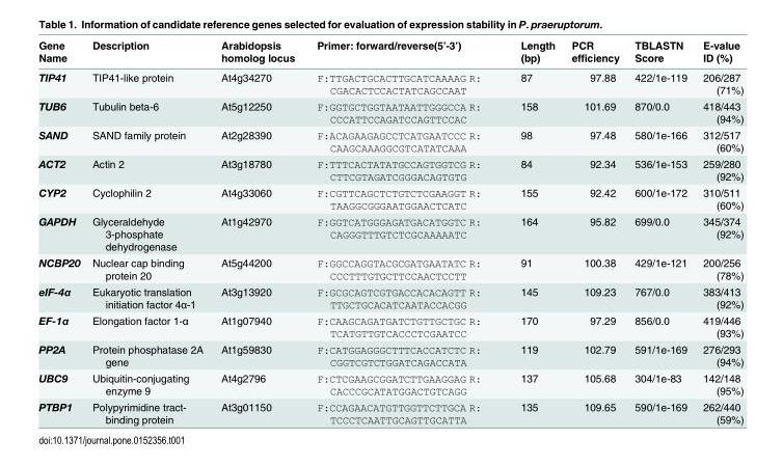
<table><thead><tr><td>Gene Name</td><td>Description</td><td>Arabidopsis homolog locus</td><td>Primer: forward/reverse(5’-3’)</td><td>Length (bp)</td><td>PCR efficiency</td><td>TBLASTN Score</td><td>E-value ID (%)</td></tr></thead><tbody><tr><td>TIP41</td><td>TIP41-like protein</td><td>At4g34270</td><td>F:TTGACTGCACTTGCATCAAAAG R: CGACACTCCACTATCAGCCAAT</td><td>87</td><td>97.88</td><td>422/1e-119</td><td>206/287 (71%)</td></tr><tr><td>TUB6</td><td>Tubulin beta-6</td><td>At5g12250</td><td>F:GGTGCTGGTAATAATTGGGCCA R: CCCATTCCAGATCCAGTTCCAC</td><td>158</td><td>101.69</td><td>870/0.0</td><td>418/443 (94%)</td></tr><tr><td>SAND</td><td>SAND family protein</td><td>At2g28390</td><td>F:ACAGAAGAGCCTCATGAATCCC R: CAAGCAAAGGCGTCATATCAAA</td><td>98</td><td>97.48</td><td>580/1e-166</td><td>312/517 (60%)</td></tr><tr><td>ACT2</td><td>Actin 2</td><td>At3g18780</td><td>F:TTTCACTATATGCCAGTGGTCG R: CTTCGTAGATCGGGACAGTGTG</td><td>84</td><td>92.34</td><td>536/1e-153</td><td>259/280 (92%)</td></tr><tr><td>CYP2</td><td>Cyclophilin 2</td><td>At4g33060</td><td>F:CGTTCAGCTCTGTCTCGAAGGT R: TAAGGCGGGAATGGAACTCATC</td><td>155</td><td>92.42</td><td>600/1e-172</td><td>310/511 (60%)</td></tr><tr><td>GAPDH</td><td>Glyceraldehyde 3-phosphate dehydrogenase</td><td>At1g42970</td><td>F:GGTCATGGGAGATGACATGGTC R: CAGGGTTTGTCTCGCAAAAATC</td><td>164</td><td>95.82</td><td>699/0.0</td><td>345/374 (92%)</td></tr><tr><td>NCBP20</td><td>Nuclear cap binding protein 20</td><td>At5g44200</td><td>F:GGCCAGGTACGCGATGAATATC R: CCCTTTGTGCTTCCAACTCCTT</td><td>91</td><td>100.38</td><td>429/1e-121</td><td>200/256 (78%)</td></tr><tr><td>eIF-4α</td><td>Eukaryotic translation initiation factor 4α-1</td><td>At3g13920</td><td>F:GCGCAGTCGTGACCACACAGTT R: TTGCTGCACATCAATACCACGG</td><td>145</td><td>109.23</td><td>767/0.0</td><td>383/413 (92%)</td></tr><tr><td>EF-1α</td><td>Elongation factor 1-α</td><td>At1g07940</td><td>F:CAAGCAGATGATCTGTTGCTGC R: TCATGTTGTCACCCTCGAATCC</td><td>170</td><td>97.29</td><td>856/0.0</td><td>419/446 (93%)</td></tr><tr><td>PP2A</td><td>Protein phosphatase 2A gene</td><td>At1g59830</td><td>F:CATGGAGGGCTTTCACCATCTC R: CGGTCGTCTGGATCAGACCATA</td><td>119</td><td>102.79</td><td>591/1e-169</td><td>276/293 (94%)</td></tr><tr><td>UBC9</td><td>Ubiquitin-conjugating enzyme 9</td><td>At4g2796</td><td>F:CTCGAAGCGGATCTTGAAGGAG R: CACCCGCATATGGACTGTCAGG</td><td>137</td><td>105.68</td><td>304/1e-83</td><td>142/148 (95%)</td></tr><tr><td>PTBP1</td><td>Polypyrimidine tract- binding protein</td><td>At3g01150</td><td>F:CCAGAACATGTTGGTTCTTGCA R: TCCCTCAATTGCAGTTGCATTA</td><td>135</td><td>109.65</td><td>590/1e-169</td><td>262/440 (59%)</td></tr></tbody></table>